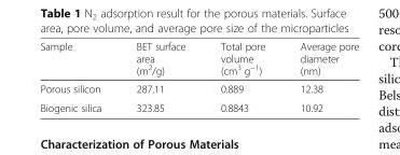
<table><thead><tr><td>Sample</td><td>BET surface area (m<sup>2</sup>/g)</td><td>Total pore volume (cm<sup>3</sup> g<sup>−1</sup>)</td><td>Average pore diameter (nm)</td></tr></thead><tbody><tr><td>Porous silicon</td><td>287.11</td><td>0.889</td><td>12.38</td></tr><tr><td>Biogenic silica</td><td>323.85</td><td>0.8843</td><td>10.92</td></tr></tbody></table>